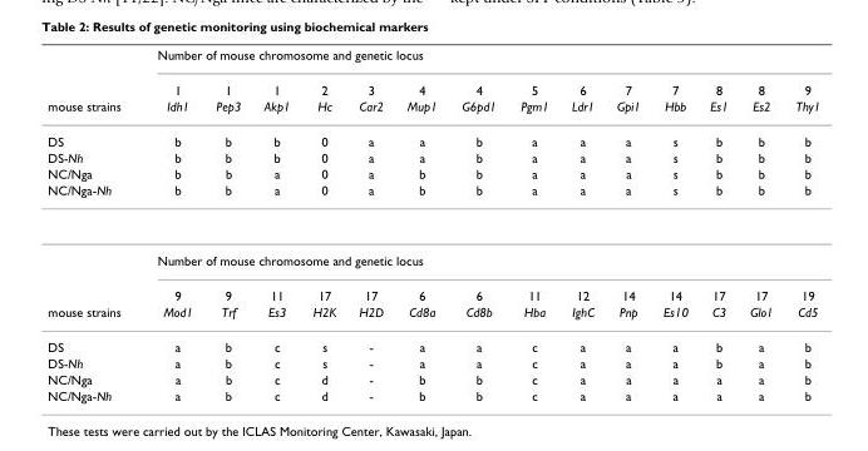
<table><thead><tr><td rowspan="3">mouse strains</td><td colspan="14">Number of mouse chromosome and genetic locus</td></tr><tr><td rowspan="2">1 Idh1</td><td rowspan="2">1 Pep3</td><td rowspan="2">1 Akp1</td><td rowspan="2">2 Hc</td><td rowspan="2">3 Car2</td><td rowspan="2">4 Mup1</td><td rowspan="2">4 G6pd1</td><td rowspan="2">5 Pgm1</td><td rowspan="2">6 Ldr1</td><td rowspan="2">7 Gpi1</td><td rowspan="2">7 Hbb</td><td rowspan="2">8 Es1</td><td rowspan="2">8 Es2</td><td rowspan="2">9 Thy1</td></tr><tr></tr></thead><tbody><tr><td>DS</td><td>b</td><td>b</td><td>b</td><td>0</td><td>a</td><td>a</td><td>b</td><td>a</td><td>a</td><td>a</td><td>s</td><td>b</td><td>b</td><td>b</td></tr><tr><td>DS-Nh</td><td>b</td><td>b</td><td>b</td><td>0</td><td>a</td><td>a</td><td>b</td><td>a</td><td>a</td><td>a</td><td>s</td><td>b</td><td>b</td><td>b</td></tr><tr><td>NC/Nga</td><td>b</td><td>b</td><td>a</td><td>0</td><td>a</td><td>b</td><td>b</td><td>a</td><td>a</td><td>a</td><td>s</td><td>b</td><td>b</td><td>b</td></tr><tr><td rowspan="3">NC/Nga-Nh</td><td>b</td><td>b</td><td>a</td><td>0</td><td>a</td><td>b</td><td>b</td><td>a</td><td>a</td><td>a</td><td>s</td><td>b</td><td>b</td><td>b</td></tr><tr><td colspan="14">Number of mouse chromosome and genetic locus</td></tr><tr><td>9</td><td>9</td><td>11</td><td>17</td><td>17</td><td>6</td><td>6</td><td>11</td><td>12</td><td>14</td><td>14</td><td>17</td><td>17</td><td>19</td></tr><tr><td>mouse strains</td><td>Mod1</td><td>Trf</td><td>Es3</td><td>H2K</td><td>H2D</td><td>Cd8a</td><td>Cd8b</td><td>Hba</td><td>IghC</td><td>Pnp</td><td>Es10</td><td>C3</td><td>Glo1</td><td>Cd5</td></tr><tr><td>DS</td><td>a</td><td>b</td><td>c</td><td>s</td><td>-</td><td>a</td><td>a</td><td>c</td><td>a</td><td>a</td><td>a</td><td>b</td><td>a</td><td>b</td></tr><tr><td>DS-Nh</td><td>a</td><td>b</td><td>c</td><td>s</td><td>-</td><td>a</td><td>a</td><td>c</td><td>a</td><td>a</td><td>a</td><td>b</td><td>a</td><td>b</td></tr><tr><td>NC/Nga</td><td>a</td><td>b</td><td>c</td><td>d</td><td>-</td><td>b</td><td>b</td><td>c</td><td>a</td><td>a</td><td>a</td><td>a</td><td>a</td><td>b</td></tr><tr><td>NC/Nga-Nh</td><td>a</td><td>b</td><td>c</td><td>d</td><td>-</td><td>b</td><td>b</td><td>c</td><td>a</td><td>a</td><td>a</td><td>a</td><td>a</td><td>b</td></tr></tbody></table>